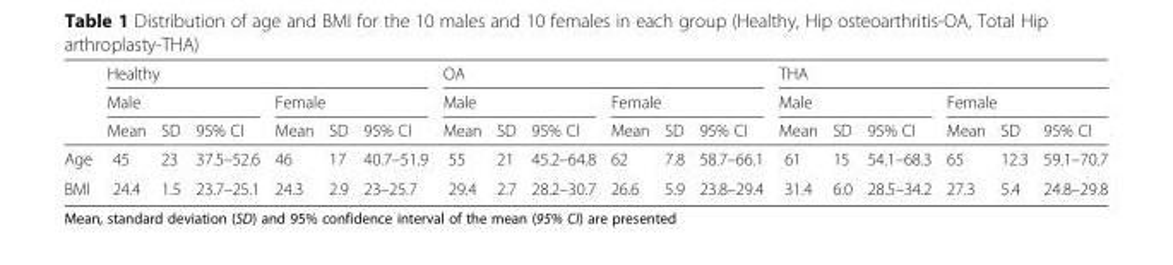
<table><thead><tr><td rowspan="3"></td><td colspan="6">Healthy</td><td colspan="6">OA</td><td colspan="6">THA</td></tr><tr><td colspan="3">Male</td><td colspan="3">Female</td><td colspan="3">Male</td><td colspan="3">Female</td><td colspan="3">Male</td><td colspan="3">Female</td></tr><tr><td>Mean</td><td>SD</td><td>95% CI</td><td>Mean</td><td>SD</td><td>95% CI</td><td>Mean</td><td>SD</td><td>95% CI</td><td>Mean</td><td>SD</td><td>95% CI</td><td>Mean</td><td>SD</td><td>95% CI</td><td>Mean</td><td>SD</td><td>95% CI</td></tr></thead><tbody><tr><td>Age</td><td>45</td><td>23</td><td>37.5–52.6</td><td>46</td><td>17</td><td>40.7–51.9</td><td>55</td><td>21</td><td>45.2–64.8</td><td>62</td><td>7.8</td><td>58.7–66.1</td><td>61</td><td>15</td><td>54.1–68.3</td><td>65</td><td>12.3</td><td>59.1–70.7</td></tr><tr><td>BMI</td><td>24.4</td><td>1.5</td><td>23.7–25.1</td><td>24.3</td><td>2.9</td><td>23–25.7</td><td>29.4</td><td>2.7</td><td>28.2–30.7</td><td>26.6</td><td>5.9</td><td>23.8–29.4</td><td>31.4</td><td>6.0</td><td>28.5–34.2</td><td>27.3</td><td>5.4</td><td>24.8–29.8</td></tr></tbody></table>